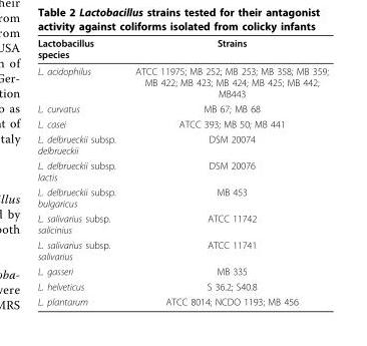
<table><thead><tr><td>Lactobacillus species</td><td>Strains</td></tr></thead><tbody><tr><td>L. acidophilus</td><td>ATCC 11975; MB 252; MB 253; MB 358; MB 359; MB 422; MB 423; MB 424; MB 425; MB 442; MB443</td></tr><tr><td>L. curvatus</td><td>MB 67; MB 68</td></tr><tr><td>L. casei</td><td>ATCC 393; MB 50; MB 441</td></tr><tr><td>L. delbrueckii subsp. delbrueckii</td><td>DSM 20074</td></tr><tr><td>L. delbrueckii subsp. lactis</td><td>DSM 20076</td></tr><tr><td>L. delbrueckii subsp. bulgaricus</td><td>MB 453</td></tr><tr><td>L. salivarius subsp. salicinius</td><td>ATCC 11742</td></tr><tr><td>L. salivarius subsp. salivarius</td><td>ATCC 11741</td></tr><tr><td>L. gasseri</td><td>MB 335</td></tr><tr><td>L. helveticus</td><td>S 36.2; S40.8</td></tr><tr><td>L. plantarum</td><td>ATCC 8014; NCDO 1193; MB 456</td></tr></tbody></table>